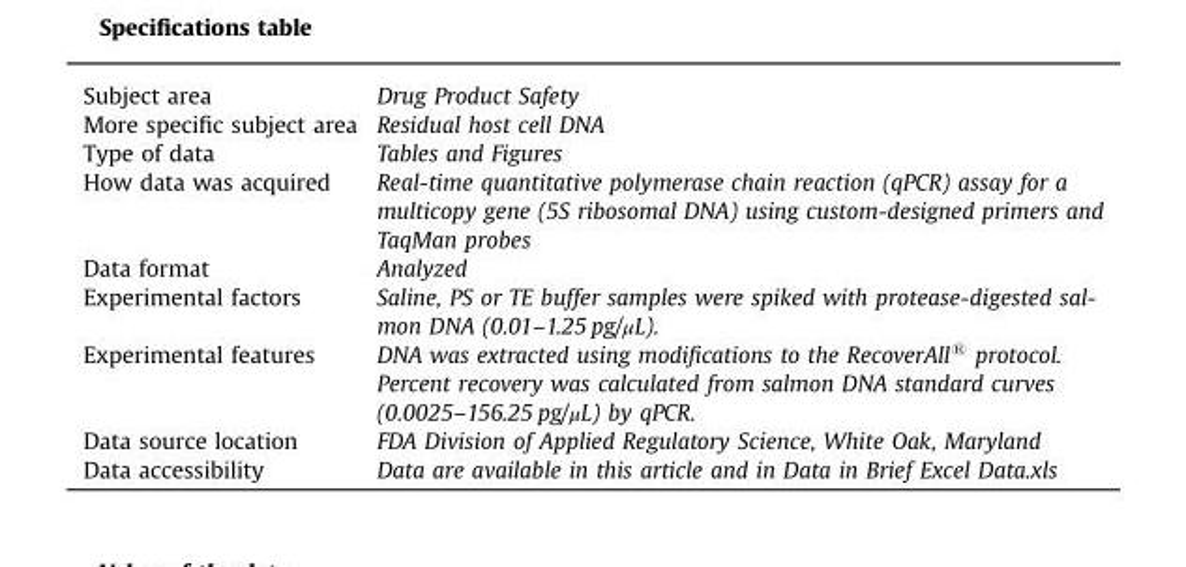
<table><tbody><tr><td>Subject area</td><td>Drug Product Safety</td></tr><tr><td>More specific subject area</td><td>Residual host cell DNA</td></tr><tr><td>Type of data</td><td>Tables and Figures</td></tr><tr><td>How data was acquired</td><td>Real-time quantitative polymerase chain reaction (qPCR) assay for a multicopy gene (5S ribosomal DNA) using custom-designed primers and TaqMan probes</td></tr><tr><td>Data format</td><td>Analyzed</td></tr><tr><td>Experimental factors</td><td>Saline, PS or TE buffer samples were spiked with protease-digested sal- mon DNA (0.01–1.25 pg/μL).</td></tr><tr><td>Experimental features</td><td>DNA was extracted using modifications to the RecoverAll® protocol. Percent recovery was calculated from salmon DNA standard curves (0.0025–156.25 pg/μL) by qPCR.</td></tr><tr><td>Data source location</td><td>FDA Division of Applied Regulatory Science, White Oak, Maryland</td></tr><tr><td>Data accessibility</td><td>Data are available in this article and in Data in Brief Excel Data.xls</td></tr></tbody></table>